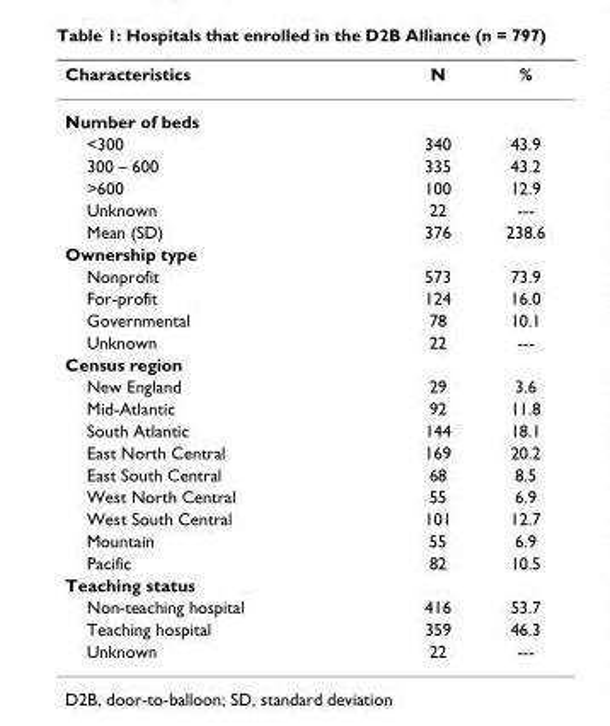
<table><thead><tr><td>Characteristics</td><td>N</td><td>%</td></tr></thead><tbody><tr><td colspan="3">Number of beds</td></tr><tr><td>&lt;300</td><td>340</td><td>43.9</td></tr><tr><td>300 – 600</td><td>335</td><td>43.2</td></tr><tr><td>&gt;600</td><td>100</td><td>12.9</td></tr><tr><td>Unknown</td><td>22</td><td>---</td></tr><tr><td>Mean (SD)</td><td>376</td><td>238.6</td></tr><tr><td colspan="3">Ownership type</td></tr><tr><td>Nonprofit</td><td>573</td><td>73.9</td></tr><tr><td>For-profit</td><td>124</td><td>16.0</td></tr><tr><td>Governmental</td><td>78</td><td>10.1</td></tr><tr><td>Unknown</td><td>22</td><td>---</td></tr><tr><td colspan="3">Census region</td></tr><tr><td>New England</td><td>29</td><td>3.6</td></tr><tr><td>Mid-Atlantic</td><td>92</td><td>11.8</td></tr><tr><td>South Atlantic</td><td>144</td><td>18.1</td></tr><tr><td>East North Central</td><td>169</td><td>20.2</td></tr><tr><td>East South Central</td><td>68</td><td>8.5</td></tr><tr><td>West North Central</td><td>55</td><td>6.9</td></tr><tr><td>West South Central</td><td>101</td><td>12.7</td></tr><tr><td>Mountain</td><td>55</td><td>6.9</td></tr><tr><td>Pacific</td><td>82</td><td>10.5</td></tr><tr><td colspan="3">Teaching status</td></tr><tr><td>Non-teaching hospital</td><td>416</td><td>53.7</td></tr><tr><td>Teaching hospital</td><td>359</td><td>46.3</td></tr><tr><td>Unknown</td><td>22</td><td>---</td></tr></tbody></table>